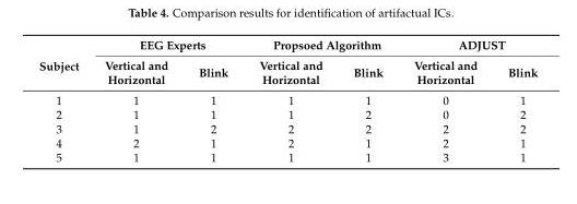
<table><thead><tr><td rowspan="2">Subject</td><td colspan="2">EEG Experts</td><td colspan="2">Propsoed Algorithm</td><td colspan="2">ADJUST</td></tr><tr><td>Vertical and Horizontal</td><td>Blink</td><td>Vertical and Horizontal</td><td>Blink</td><td>Vertical and Horizontal</td><td>Blink</td></tr></thead><tbody><tr><td>1</td><td>1</td><td>1</td><td>1</td><td>1</td><td>0</td><td>1</td></tr><tr><td>2</td><td>1</td><td>1</td><td>1</td><td>2</td><td>0</td><td>2</td></tr><tr><td>3</td><td>1</td><td>2</td><td>2</td><td>2</td><td>2</td><td>2</td></tr><tr><td>4</td><td>2</td><td>1</td><td>2</td><td>1</td><td>2</td><td>1</td></tr><tr><td>5</td><td>1</td><td>1</td><td>1</td><td>1</td><td>3</td><td>1</td></tr></tbody></table>